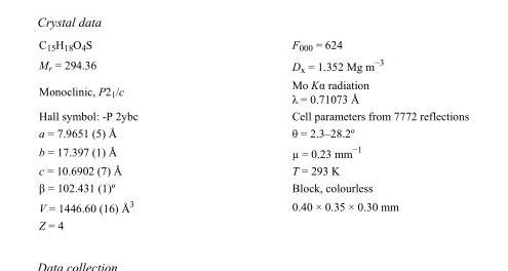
<table><tbody><tr><td>C<sub>15</sub>H<sub>18</sub>O<sub>4</sub>S</td><td>F000 = 624</td></tr><tr><td>M<sub>r</sub> = 294.36</td><td>D<sub>x</sub> = 1.352 Mg m<sup>−3</sup></td></tr><tr><td>Monoclinic, P2<sub>1</sub>/c</td><td>Mo Kα radiation λ = 0.71073 Å</td></tr><tr><td>Hall symbol: -P 2ybc</td><td>Cell parameters from 7772 reflections</td></tr><tr><td>a = 7.9651 (5) Å</td><td>θ = 2.3–28.2º</td></tr><tr><td>b = 17.397 (1) Å</td><td>µ = 0.23 mm<sup>−1</sup></td></tr><tr><td>c = 10.6902 (7) Å</td><td>T = 293 K</td></tr><tr><td>β = 102.431 (1)º</td><td>Block, colourless</td></tr><tr><td>V = 1446.60 (16) Å<sup>3</sup></td><td>0.40 × 0.35 × 0.30 mm</td></tr><tr><td>Z = 4</td><td></td></tr></tbody></table>